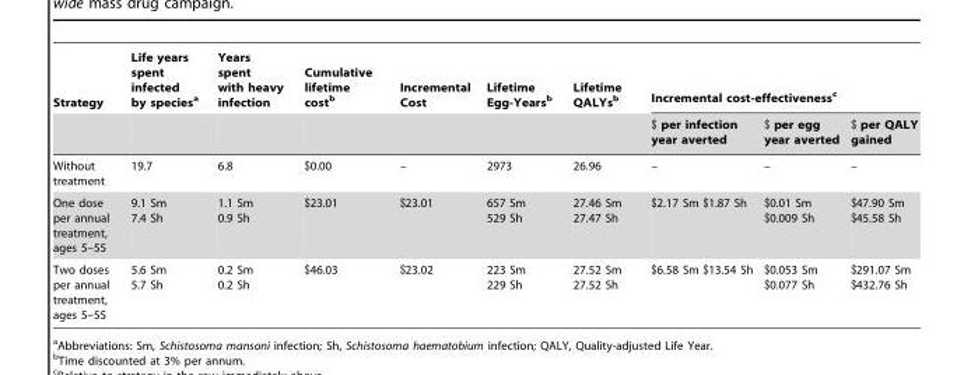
<table><thead><tr><td rowspan="2">Strategy</td><td rowspan="2">Life years spent infected by species<sup>a</sup></td><td rowspan="2">Years spent with heavy infection</td><td rowspan="2">Cumulative lifetime cost<sup>b</sup></td><td rowspan="2">Incremental Cost</td><td rowspan="2">Lifetime Egg-Years<sup>b</sup></td><td rowspan="2">Lifetime QALYs<sup>b</sup></td><td colspan="3">Incremental cost-effectiveness<sup>c</sup></td></tr><tr><td>$ per infection year averted</td><td>$ per egg year averted</td><td>$ per QALY gained</td></tr></thead><tbody><tr><td>Without treatment</td><td>19.7</td><td>6.8</td><td>$0.00</td><td>–</td><td>2973</td><td>26.96</td><td>–</td><td>–</td><td>–</td></tr><tr><td>One dose per annual treatment, ages 5–55</td><td>9.1 Sm 7.4 Sh</td><td>1.1 Sm 0.9 Sh</td><td>$23.01</td><td>$23.01</td><td>657 Sm 529 Sh</td><td>27.46 Sm 27.47 Sh</td><td>$2.17 Sm $1.87 Sh</td><td>$0.01 Sm $0.009 Sh</td><td>$47.90 Sm $45.58 Sh</td></tr><tr><td>Two doses per annual treatment, ages 5–55</td><td>5.6 Sm 5.7 Sh</td><td>0.2 Sm 0.2 Sh</td><td>$46.03</td><td>$23.02</td><td>223 Sm 229 Sh</td><td>27.52 Sm 27.52 Sh</td><td>$6.58 Sm $13.54 Sh</td><td>$0.053 Sm $0.077 Sh</td><td>$291.07 Sm $432.76 Sh</td></tr></tbody></table>